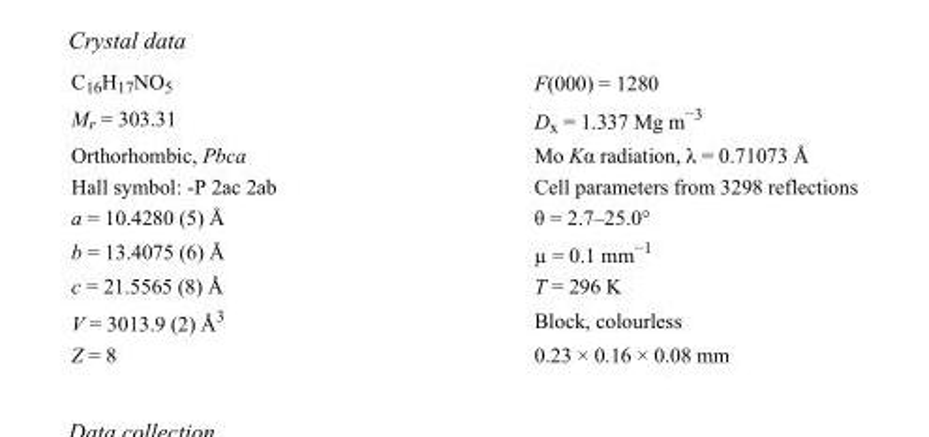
<table><tbody><tr><td>C<sub>16</sub>H<sub>17</sub>NO<sub>5</sub></td><td>F(000) = 1280</td></tr><tr><td>M<sub>r</sub> = 303.31</td><td>D<sub>x</sub> = 1.337 Mg m<sup>−3</sup></td></tr><tr><td>Orthorhombic, Pbca</td><td>Mo Kα radiation, λ = 0.71073 Å</td></tr><tr><td>Hall symbol: -P 2ac 2ab</td><td>Cell parameters from 3298 reflections</td></tr><tr><td>a = 10.4280 (5) Å</td><td>θ = 2.7–25.0°</td></tr><tr><td>b = 13.4075 (6) Å</td><td>µ = 0.1 mm<sup>−1</sup></td></tr><tr><td>c = 21.5565 (8) Å</td><td>T = 296 K</td></tr><tr><td>V = 3013.9 (2) Å<sup>3</sup></td><td>Block, colourless</td></tr><tr><td>Z = 8</td><td>0.23 × 0.16 × 0.08 mm</td></tr></tbody></table>